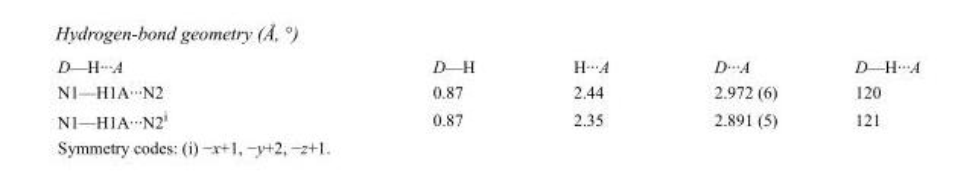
<table><tbody><tr><td>D—H···A</td><td>D—H</td><td>H···A</td><td>D···A</td><td>D—H···A</td></tr><tr><td>N1—H1A···N2</td><td>0.87</td><td>2.44</td><td>2.972 (6)</td><td>120</td></tr><tr><td>N1—H1A···N2<sup>i</sup></td><td>0.87</td><td>2.35</td><td>2.891 (5)</td><td>121</td></tr></tbody></table>